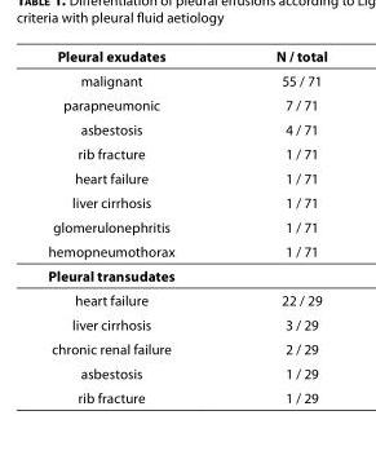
<table><thead><tr><td>Pleural exudates</td><td>N / total</td></tr></thead><tbody><tr><td>malignant</td><td>55 / 71</td></tr><tr><td>parapneumonic</td><td>7 / 71</td></tr><tr><td>asbestosis</td><td>4 / 71</td></tr><tr><td>rib fracture</td><td>1 / 71</td></tr><tr><td>heart failure</td><td>1 / 71</td></tr><tr><td>liver cirrhosis</td><td>1 / 71</td></tr><tr><td>glomerulonephritis</td><td>1 / 71</td></tr><tr><td>hemopneumothorax</td><td>1 / 71</td></tr><tr><td colspan="2">Pleural transudates</td></tr><tr><td>heart failure</td><td>22 / 29</td></tr><tr><td>liver cirrhosis</td><td>3 / 29</td></tr><tr><td>chronic renal failure</td><td>2 / 29</td></tr><tr><td>asbestosis</td><td>1 / 29</td></tr><tr><td>rib fracture</td><td>1 / 29</td></tr></tbody></table>